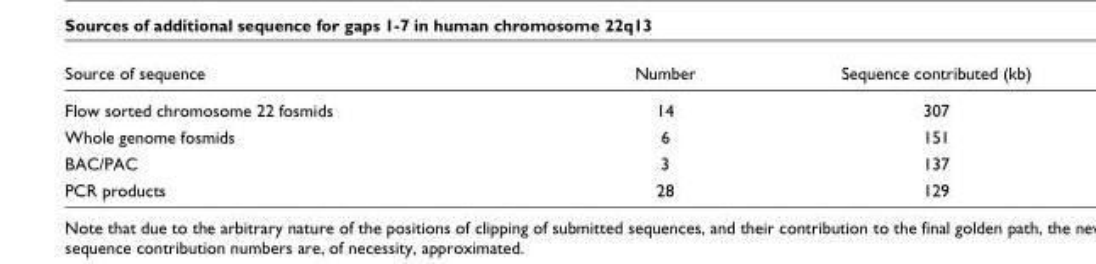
<table><thead><tr><td>Source of sequence</td><td>Number</td><td>Sequence contributed (kb)</td></tr></thead><tbody><tr><td>Flow sorted chromosome 22 fosmids</td><td>14</td><td>307</td></tr><tr><td>Whole genome fosmids</td><td>6</td><td>151</td></tr><tr><td>BAC/PAC</td><td>3</td><td>137</td></tr><tr><td>PCR products</td><td>28</td><td>129</td></tr></tbody></table>